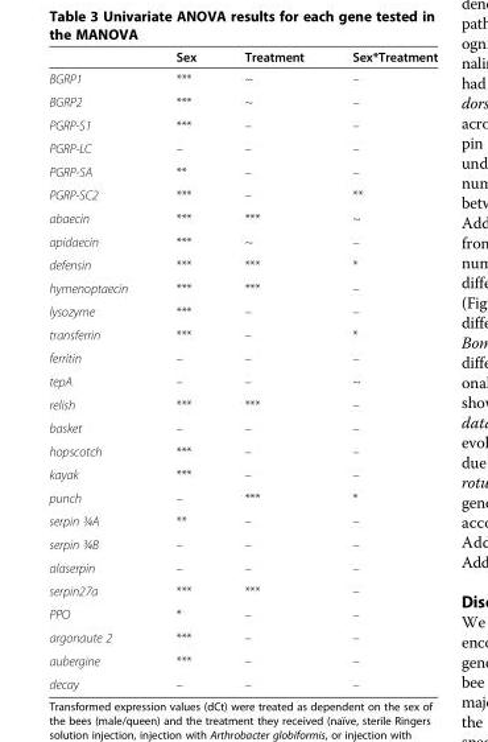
<table><thead><tr><td></td><td>Sex</td><td>Treatment</td><td>Sex*Treatment</td></tr></thead><tbody><tr><td>BGRP1</td><td>***</td><td>~</td><td>–</td></tr><tr><td>BGRP2</td><td>***</td><td>~</td><td>–</td></tr><tr><td>PGRP-S1</td><td>***</td><td>–</td><td>–</td></tr><tr><td>PGRP-LC</td><td>–</td><td>–</td><td>–</td></tr><tr><td>PGRP-SA</td><td>**</td><td>–</td><td>–</td></tr><tr><td>PGRP-SC2</td><td>***</td><td>–</td><td>**</td></tr><tr><td>abaecin</td><td>***</td><td>***</td><td>~</td></tr><tr><td>apidaecin</td><td>***</td><td>~</td><td>–</td></tr><tr><td>defensin</td><td>***</td><td>***</td><td>*</td></tr><tr><td>hymenoptaecin</td><td>***</td><td>***</td><td>–</td></tr><tr><td>lysozyme</td><td>***</td><td>–</td><td>–</td></tr><tr><td>transferrin</td><td>***</td><td>–</td><td>*</td></tr><tr><td>ferritin</td><td>–</td><td>–</td><td>–</td></tr><tr><td>tepA</td><td>–</td><td>–</td><td>~</td></tr><tr><td>relish</td><td>***</td><td>***</td><td>–</td></tr><tr><td>basket</td><td>–</td><td>–</td><td>–</td></tr><tr><td>hopscotch</td><td>***</td><td>–</td><td>–</td></tr><tr><td>kayak</td><td>***</td><td>–</td><td>–</td></tr><tr><td>punch</td><td>–</td><td>***</td><td>*</td></tr><tr><td>serpin ¾A</td><td>**</td><td>–</td><td>–</td></tr><tr><td>serpin ¾B</td><td>–</td><td>–</td><td>–</td></tr><tr><td>alaserpin</td><td>–</td><td>–</td><td>–</td></tr><tr><td>serpin27a</td><td>***</td><td>***</td><td>–</td></tr><tr><td>PPO</td><td>*</td><td>–</td><td>–</td></tr><tr><td>argonaute 2</td><td>***</td><td>–</td><td>–</td></tr><tr><td>aubergine</td><td>***</td><td>–</td><td>–</td></tr><tr><td>decay</td><td>–</td><td>–</td><td>–</td></tr></tbody></table>